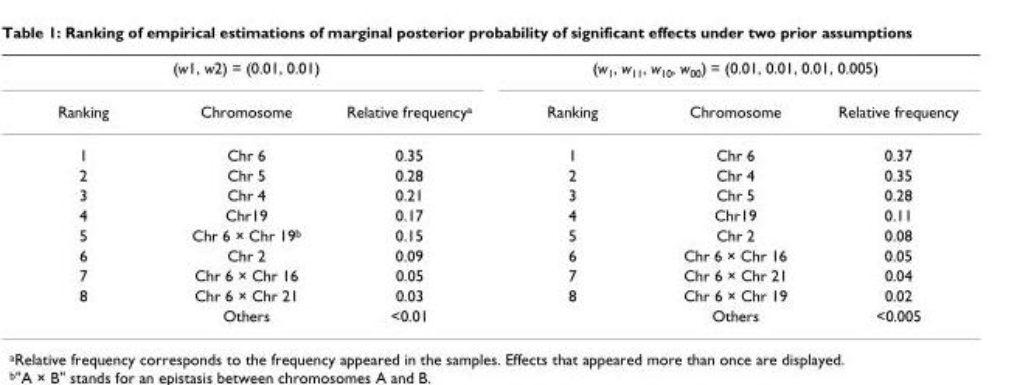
<table><thead><tr><td colspan="3">(w1, w2) = (0.01, 0.01)</td><td colspan="3">(w<sub>1</sub>, w<sub>11</sub>, w<sub>10</sub>, w<sub>00</sub>) = (0.01, 0.01, 0.01, 0.005)</td></tr><tr><td>Ranking</td><td>Chromosome</td><td>Relative frequency<sup>a</sup></td><td>Ranking</td><td>Chromosome</td><td>Relative frequency</td></tr></thead><tbody><tr><td>1</td><td>Chr 6</td><td>0.35</td><td>1</td><td>Chr 6</td><td>0.37</td></tr><tr><td>2</td><td>Chr 5</td><td>0.28</td><td>2</td><td>Chr 4</td><td>0.35</td></tr><tr><td>3</td><td>Chr 4</td><td>0.21</td><td>3</td><td>Chr 5</td><td>0.28</td></tr><tr><td>4</td><td>Chr19</td><td>0.17</td><td>4</td><td>Chr19</td><td>0.11</td></tr><tr><td>5</td><td>Chr 6 × Chr 19<sup>b</sup></td><td>0.15</td><td>5</td><td>Chr 2</td><td>0.08</td></tr><tr><td>6</td><td>Chr 2</td><td>0.09</td><td>6</td><td>Chr 6 × Chr 16</td><td>0.05</td></tr><tr><td>7</td><td>Chr 6 × Chr 16</td><td>0.05</td><td>7</td><td>Chr 6 × Chr 21</td><td>0.04</td></tr><tr><td rowspan="2">8</td><td>Chr 6 × Chr 21</td><td>0.03</td><td>8</td><td>Chr 6 × Chr 19</td><td>0.02</td></tr><tr><td>Others</td><td>&lt;0.01</td><td></td><td>Others</td><td>&lt;0.005</td></tr></tbody></table>